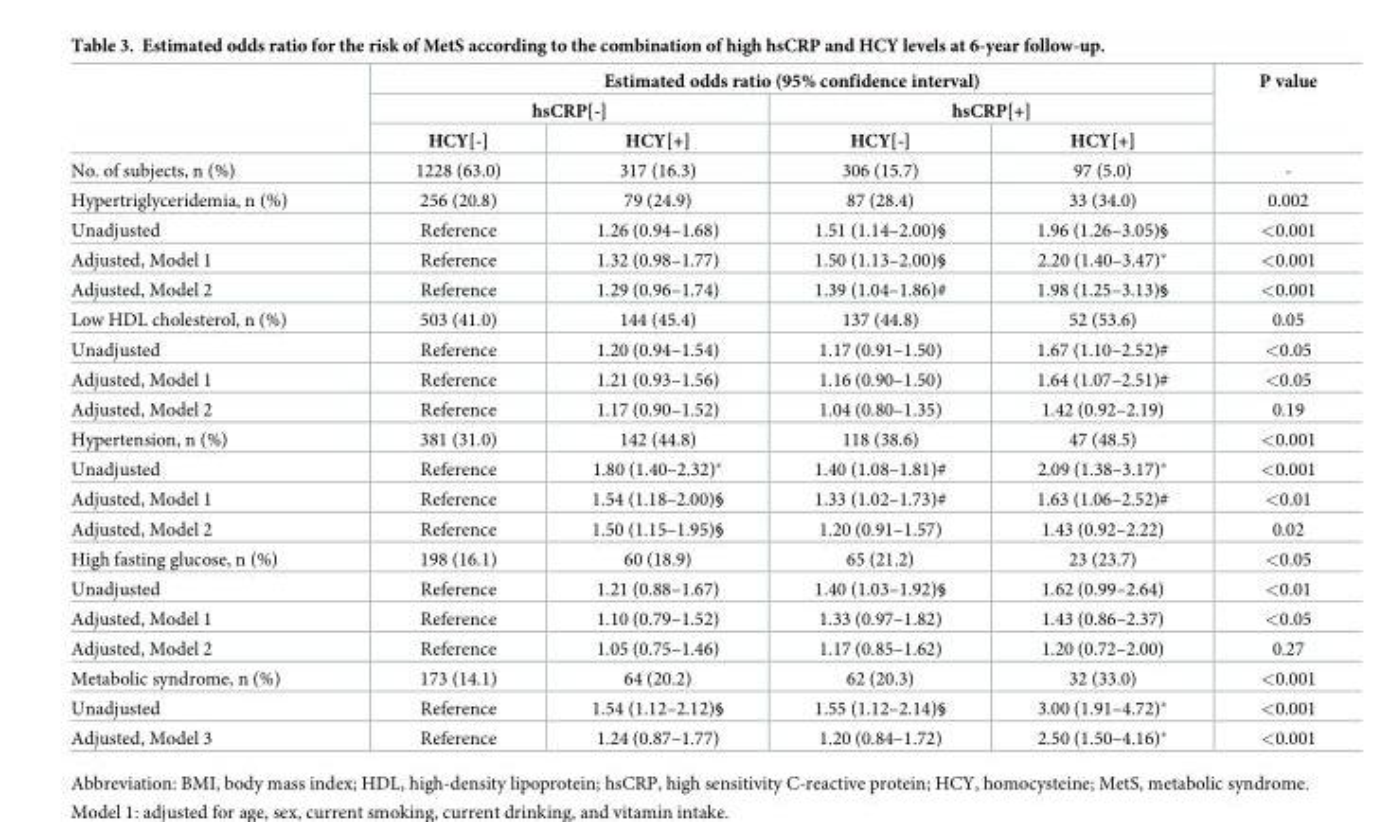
<table><thead><tr><td rowspan="3"></td><td colspan="4">Estimated odds ratio (95% confidence interval)</td><td rowspan="3">P value</td></tr><tr><td colspan="2">hsCRP[-]</td><td colspan="2">hsCRP[+]</td></tr><tr><td>HCY[-]</td><td>HCY[+]</td><td>HCY[-]</td><td>HCY[+]</td></tr></thead><tbody><tr><td>No. of subjects, n (%)</td><td>1228 (63.0)</td><td>317 (16.3)</td><td>306 (15.7)</td><td>97 (5.0)</td><td>-</td></tr><tr><td>Hypertriglyceridemia, n (%)</td><td>256 (20.8)</td><td>79 (24.9)</td><td>87 (28.4)</td><td>33 (34.0)</td><td>0.002</td></tr><tr><td>Unadjusted</td><td>Reference</td><td>1.26 (0.94–1.68)</td><td>1.51 (1.14–2.00)§</td><td>1.96 (1.26–3.05)§</td><td>&lt;0.001</td></tr><tr><td>Adjusted, Model 1</td><td>Reference</td><td>1.32 (0.98–1.77)</td><td>1.50 (1.13–2.00)§</td><td>2.20 (1.40–3.47)*</td><td>&lt;0.001</td></tr><tr><td>Adjusted, Model 2</td><td>Reference</td><td>1.29 (0.96–1.74)</td><td>1.39 (1.04–1.86)#</td><td>1.98 (1.25–3.13)§</td><td>&lt;0.001</td></tr><tr><td>Low HDL cholesterol, n (%)</td><td>503 (41.0)</td><td>144 (45.4)</td><td>137 (44.8)</td><td>52 (53.6)</td><td>0.05</td></tr><tr><td>Unadjusted</td><td>Reference</td><td>1.20 (0.94–1.54)</td><td>1.17 (0.91–1.50)</td><td>1.67 (1.10–2.52)#</td><td>&lt;0.05</td></tr><tr><td>Adjusted, Model 1</td><td>Reference</td><td>1.21 (0.93–1.56)</td><td>1.16 (0.90–1.50)</td><td>1.64 (1.07–2.51)#</td><td>&lt;0.05</td></tr><tr><td>Adjusted, Model 2</td><td>Reference</td><td>1.17 (0.90–1.52)</td><td>1.04 (0.80–1.35)</td><td>1.42 (0.92–2.19)</td><td>0.19</td></tr><tr><td>Hypertension, n (%)</td><td>381 (31.0)</td><td>142 (44.8)</td><td>118 (38.6)</td><td>47 (48.5)</td><td>&lt;0.001</td></tr><tr><td>Unadjusted</td><td>Reference</td><td>1.80 (1.40–2.32)*</td><td>1.40 (1.08–1.81)#</td><td>2.09 (1.38–3.17)*</td><td>&lt;0.001</td></tr><tr><td>Adjusted, Model 1</td><td>Reference</td><td>1.54 (1.18–2.00)§</td><td>1.33 (1.02–1.73)#</td><td>1.63 (1.06–2.52)#</td><td>&lt;0.01</td></tr><tr><td>Adjusted, Model 2</td><td>Reference</td><td>1.50 (1.15–1.95)§</td><td>1.20 (0.91–1.57)</td><td>1.43 (0.92–2.22)</td><td>0.02</td></tr><tr><td>High fasting glucose, n (%)</td><td>198 (16.1)</td><td>60 (18.9)</td><td>65 (21.2)</td><td>23 (23.7)</td><td>&lt;0.05</td></tr><tr><td>Unadjusted</td><td>Reference</td><td>1.21 (0.88–1.67)</td><td>1.40 (1.03–1.92)§</td><td>1.62 (0.99–2.64)</td><td>&lt;0.01</td></tr><tr><td>Adjusted, Model 1</td><td>Reference</td><td>1.10 (0.79–1.52)</td><td>1.33 (0.97–1.82)</td><td>1.43 (0.86–2.37)</td><td>&lt;0.05</td></tr><tr><td>Adjusted, Model 2</td><td>Reference</td><td>1.05 (0.75–1.46)</td><td>1.17 (0.85–1.62)</td><td>1.20 (0.72–2.00)</td><td>0.27</td></tr><tr><td>Metabolic syndrome, n (%)</td><td>173 (14.1)</td><td>64 (20.2)</td><td>62 (20.3)</td><td>32 (33.0)</td><td>&lt;0.001</td></tr><tr><td>Unadjusted</td><td>Reference</td><td>1.54 (1.12–2.12)§</td><td>1.55 (1.12–2.14)§</td><td>3.00 (1.91–4.72)*</td><td>&lt;0.001</td></tr><tr><td>Adjusted, Model 3</td><td>Reference</td><td>1.24 (0.87–1.77)</td><td>1.20 (0.84–1.72)</td><td>2.50 (1.50–4.16)*</td><td>&lt;0.001</td></tr></tbody></table>